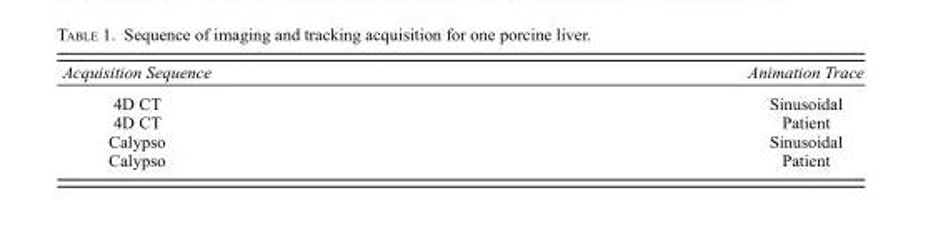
<table><thead><tr><td>Acquisition Sequence</td><td>Animation Trace</td></tr></thead><tbody><tr><td>4D CT</td><td>Sinusoidal</td></tr><tr><td>4D CT</td><td>Patient</td></tr><tr><td>Calypso</td><td>Sinusoidal</td></tr><tr><td>Calypso</td><td>Patient</td></tr></tbody></table>